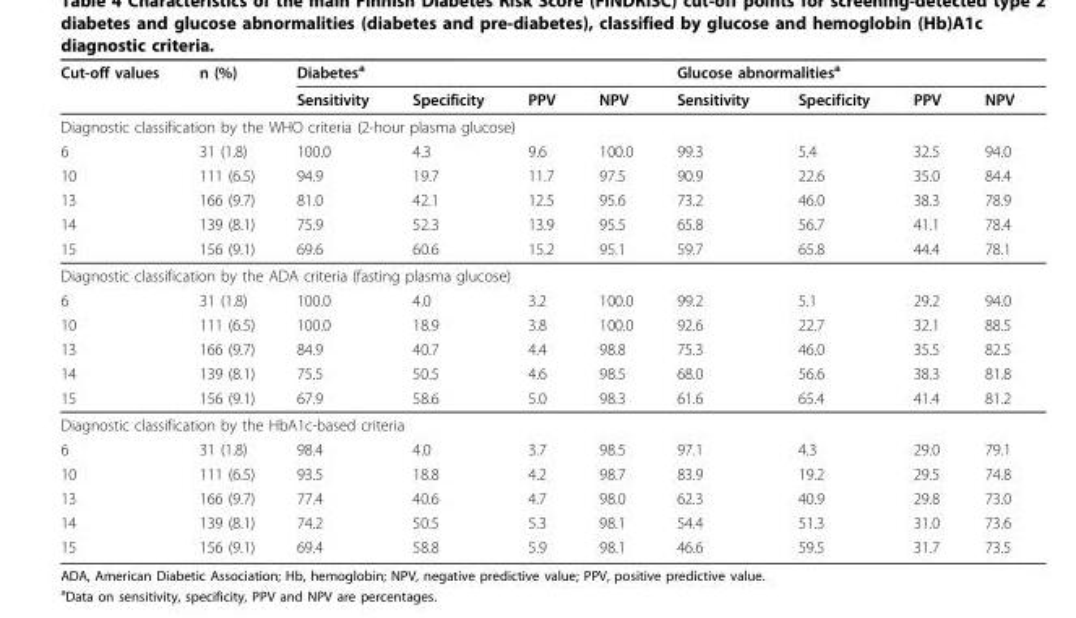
<table><thead><tr><td rowspan="2">Cut-off values</td><td rowspan="2">n (%)</td><td colspan="4">Diabetes<sup>a</sup></td><td colspan="4">Glucose abnormalities<sup>a</sup></td></tr><tr><td>Sensitivity</td><td>Specificity</td><td>PPV</td><td>NPV</td><td>Sensitivity</td><td>Specificity</td><td>PPV</td><td>NPV</td></tr></thead><tbody><tr><td colspan="10">Diagnostic classification by the WHO criteria (2-hour plasma glucose)</td></tr><tr><td>6</td><td>31 (1.8)</td><td>100.0</td><td>4.3</td><td>9.6</td><td>100.0</td><td>99.3</td><td>5.4</td><td>32.5</td><td>94.0</td></tr><tr><td>10</td><td>111 (6.5)</td><td>94.9</td><td>19.7</td><td>11.7</td><td>97.5</td><td>90.9</td><td>22.6</td><td>35.0</td><td>84.4</td></tr><tr><td>13</td><td>166 (9.7)</td><td>81.0</td><td>42.1</td><td>12.5</td><td>95.6</td><td>73.2</td><td>46.0</td><td>38.3</td><td>78.9</td></tr><tr><td>14</td><td>139 (8.1)</td><td>75.9</td><td>52.3</td><td>13.9</td><td>95.5</td><td>65.8</td><td>56.7</td><td>41.1</td><td>78.4</td></tr><tr><td>15</td><td>156 (9.1)</td><td>69.6</td><td>60.6</td><td>15.2</td><td>95.1</td><td>59.7</td><td>65.8</td><td>44.4</td><td>78.1</td></tr><tr><td colspan="10">Diagnostic classification by the ADA criteria (fasting plasma glucose)</td></tr><tr><td>6</td><td>31 (1.8)</td><td>100.0</td><td>4.0</td><td>3.2</td><td>100.0</td><td>99.2</td><td>5.1</td><td>29.2</td><td>94.0</td></tr><tr><td>10</td><td>111 (6.5)</td><td>100.0</td><td>18.9</td><td>3.8</td><td>100.0</td><td>92.6</td><td>22.7</td><td>32.1</td><td>88.5</td></tr><tr><td>13</td><td>166 (9.7)</td><td>84.9</td><td>40.7</td><td>4.4</td><td>98.8</td><td>75.3</td><td>46.0</td><td>35.5</td><td>82.5</td></tr><tr><td>14</td><td>139 (8.1)</td><td>75.5</td><td>50.5</td><td>4.6</td><td>98.5</td><td>68.0</td><td>56.6</td><td>38.3</td><td>81.8</td></tr><tr><td>15</td><td>156 (9.1)</td><td>67.9</td><td>58.6</td><td>5.0</td><td>98.3</td><td>61.6</td><td>65.4</td><td>41.4</td><td>81.2</td></tr><tr><td colspan="10">Diagnostic classification by the HbA1c-based criteria</td></tr><tr><td>6</td><td>31 (1.8)</td><td>98.4</td><td>4.0</td><td>3.7</td><td>98.5</td><td>97.1</td><td>4.3</td><td>29.0</td><td>79.1</td></tr><tr><td>10</td><td>111 (6.5)</td><td>93.5</td><td>18.8</td><td>4.2</td><td>98.7</td><td>83.9</td><td>19.2</td><td>29.5</td><td>74.8</td></tr><tr><td>13</td><td>166 (9.7)</td><td>77.4</td><td>40.6</td><td>4.7</td><td>98.0</td><td>62.3</td><td>40.9</td><td>29.8</td><td>73.0</td></tr><tr><td>14</td><td>139 (8.1)</td><td>74.2</td><td>50.5</td><td>5.3</td><td>98.1</td><td>54.4</td><td>51.3</td><td>31.0</td><td>73.6</td></tr><tr><td>15</td><td>156 (9.1)</td><td>69.4</td><td>58.8</td><td>5.9</td><td>98.1</td><td>46.6</td><td>59.5</td><td>31.7</td><td>73.5</td></tr></tbody></table>